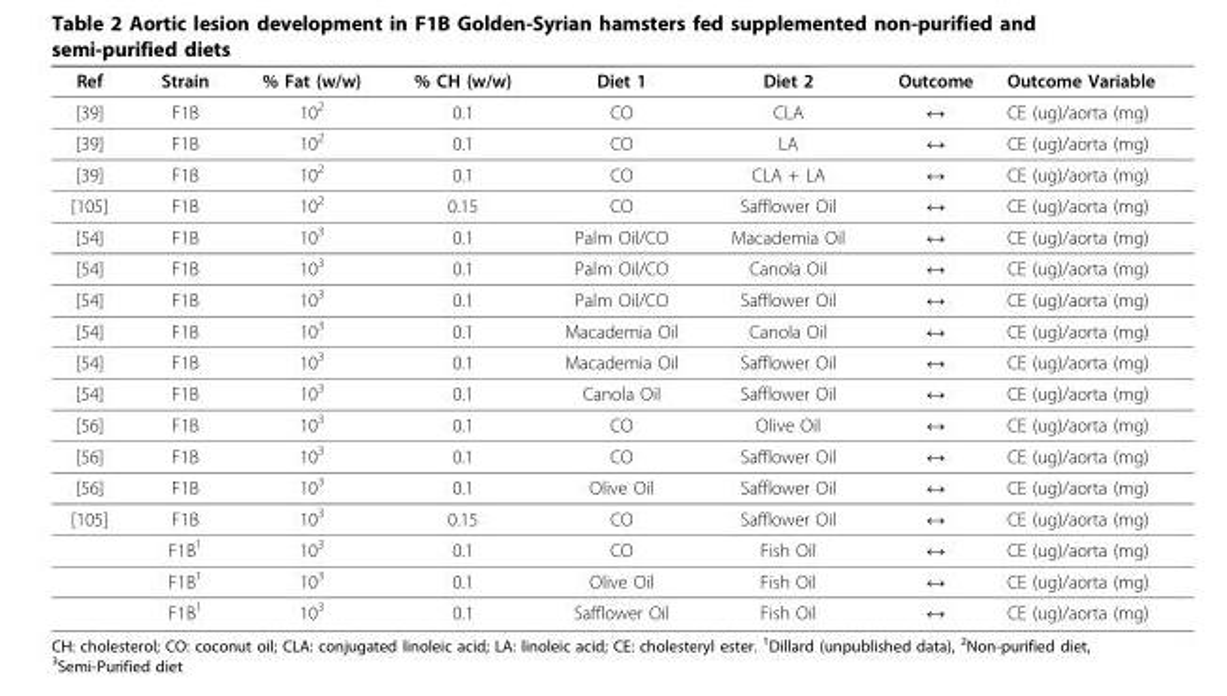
<table><thead><tr><td>Ref</td><td>Strain</td><td>% Fat (w/w)</td><td>% CH (w/w)</td><td>Diet 1</td><td>Diet 2</td><td>Outcome</td><td>Outcome Variable</td></tr></thead><tbody><tr><td>[39]</td><td>F1B</td><td>10<sup>2</sup></td><td>0.1</td><td>CO</td><td>CLA</td><td>↔</td><td>CE (ug)/aorta (mg)</td></tr><tr><td>[39]</td><td>F1B</td><td>10<sup>2</sup></td><td>0.1</td><td>CO</td><td>LA</td><td>↔</td><td>CE (ug)/aorta (mg)</td></tr><tr><td>[39]</td><td>F1B</td><td>10<sup>2</sup></td><td>0.1</td><td>CO</td><td>CLA + LA</td><td>↔</td><td>CE (ug)/aorta (mg)</td></tr><tr><td>[105]</td><td>F1B</td><td>10<sup>2</sup></td><td>0.15</td><td>CO</td><td>Safflower Oil</td><td>↔</td><td>CE (ug)/aorta (mg)</td></tr><tr><td>[54]</td><td>F1B</td><td>10<sup>3</sup></td><td>0.1</td><td>Palm Oil/CO</td><td>Macademia Oil</td><td>↔</td><td>CE (ug)/aorta (mg)</td></tr><tr><td>[54]</td><td>F1B</td><td>10<sup>3</sup></td><td>0.1</td><td>Palm Oil/CO</td><td>Canola Oil</td><td>↔</td><td>CE (ug)/aorta (mg)</td></tr><tr><td>[54]</td><td>F1B</td><td>10<sup>3</sup></td><td>0.1</td><td>Palm Oil/CO</td><td>Safflower Oil</td><td>↔</td><td>CE (ug)/aorta (mg)</td></tr><tr><td>[54]</td><td>F1B</td><td>10<sup>3</sup></td><td>0.1</td><td>Macademia Oil</td><td>Canola Oil</td><td>↔</td><td>CE (ug)/aorta (mg)</td></tr><tr><td>[54]</td><td>F1B</td><td>10<sup>3</sup></td><td>0.1</td><td>Macademia Oil</td><td>Safflower Oil</td><td>↔</td><td>CE (ug)/aorta (mg)</td></tr><tr><td>[54]</td><td>F1B</td><td>10<sup>3</sup></td><td>0.1</td><td>Canola Oil</td><td>Safflower Oil</td><td>↔</td><td>CE (ug)/aorta (mg)</td></tr><tr><td>[56]</td><td>F1B</td><td>10<sup>3</sup></td><td>0.1</td><td>CO</td><td>Olive Oil</td><td>↔</td><td>CE (ug)/aorta (mg)</td></tr><tr><td>[56]</td><td>F1B</td><td>10<sup>3</sup></td><td>0.1</td><td>CO</td><td>Safflower Oil</td><td>↔</td><td>CE (ug)/aorta (mg)</td></tr><tr><td>[56]</td><td>F1B</td><td>10<sup>3</sup></td><td>0.1</td><td>Olive Oil</td><td>Safflower Oil</td><td>↔</td><td>CE (ug)/aorta (mg)</td></tr><tr><td rowspan="4">[105]</td><td>F1B</td><td>10<sup>3</sup></td><td>0.15</td><td>CO</td><td>Safflower Oil</td><td>↔</td><td>CE (ug)/aorta (mg)</td></tr><tr><td>F1B<sup>1</sup></td><td>10<sup>3</sup></td><td>0.1</td><td>CO</td><td>Fish Oil</td><td>↔</td><td>CE (ug)/aorta (mg)</td></tr><tr><td>F1B<sup>1</sup></td><td>10<sup>3</sup></td><td>0.1</td><td>Olive Oil</td><td>Fish Oil</td><td>↔</td><td>CE (ug)/aorta (mg)</td></tr><tr><td>F1B<sup>1</sup></td><td>10<sup>3</sup></td><td>0.1</td><td>Safflower Oil</td><td>Fish Oil</td><td>↔</td><td>CE (ug)/aorta (mg)</td></tr></tbody></table>